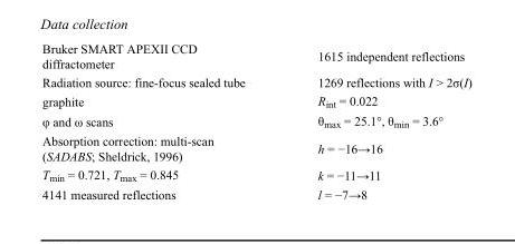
<table><tbody><tr><td>Bruker SMART APEXII CCD diffractometer</td><td>1615 independent reflections</td></tr><tr><td>Radiation source: fine-focus sealed tube</td><td>1269 reflections with I &gt; 2σ(I)</td></tr><tr><td>graphite</td><td>R<sub>int</sub> = 0.022</td></tr><tr><td>φ and ω scans</td><td>θ<sub>max</sub> = 25.1°, θ<sub>min</sub> = 3.6°</td></tr><tr><td>Absorption correction: multi-scan (SADABS; Sheldrick, 1996)</td><td>h = −16→16</td></tr><tr><td>T<sub>min</sub> = 0.721, T<sub>max</sub> = 0.845</td><td>k = −11→11</td></tr><tr><td>4141 measured reflections</td><td>l = −7→8</td></tr></tbody></table>